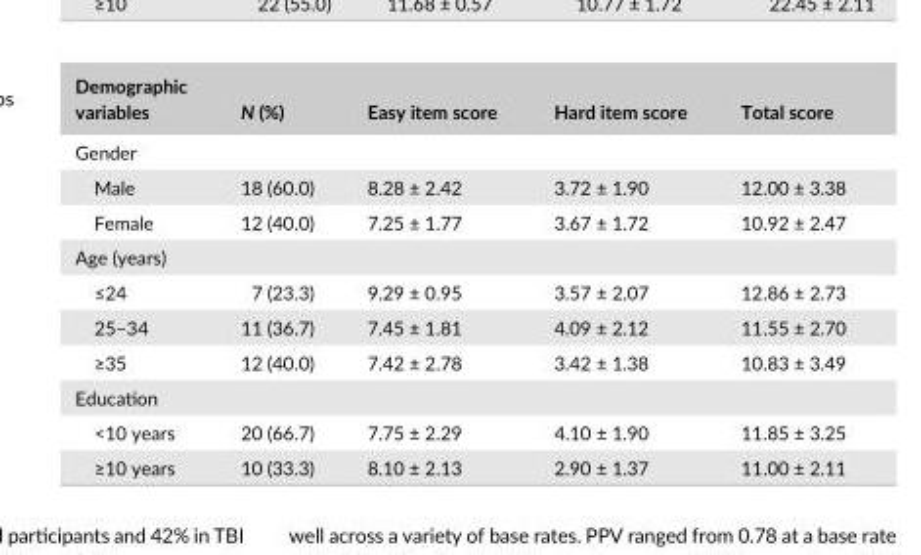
<table><thead><tr><td>Demographic variables</td><td>N (%)</td><td>Easy item score</td><td>Hard item score</td><td>Total score</td></tr></thead><tbody><tr><td colspan="5">Gender</td></tr><tr><td>Male</td><td>18 (60.0)</td><td>8.28 ± 2.42</td><td>3.72 ± 1.90</td><td>12.00 ± 3.38</td></tr><tr><td>Female</td><td>12 (40.0)</td><td>7.25 ± 1.77</td><td>3.67 ± 1.72</td><td>10.92 ± 2.47</td></tr><tr><td colspan="5">Age (years)</td></tr><tr><td>≤24</td><td>7 (23.3)</td><td>9.29 ± 0.95</td><td>3.57 ± 2.07</td><td>12.86 ± 2.73</td></tr><tr><td>25–34</td><td>11 (36.7)</td><td>7.45 ± 1.81</td><td>4.09 ± 2.12</td><td>11.55 ± 2.70</td></tr><tr><td>≥35</td><td>12 (40.0)</td><td>7.42 ± 2.78</td><td>3.42 ± 1.38</td><td>10.83 ± 3.49</td></tr><tr><td colspan="5">Education</td></tr><tr><td>&lt;10 years</td><td>20 (66.7)</td><td>7.75 ± 2.29</td><td>4.10 ± 1.90</td><td>11.85 ± 3.25</td></tr><tr><td>≥10 years</td><td>10 (33.3)</td><td>8.10 ± 2.13</td><td>2.90 ± 1.37</td><td>11.00 ± 2.11</td></tr></tbody></table>